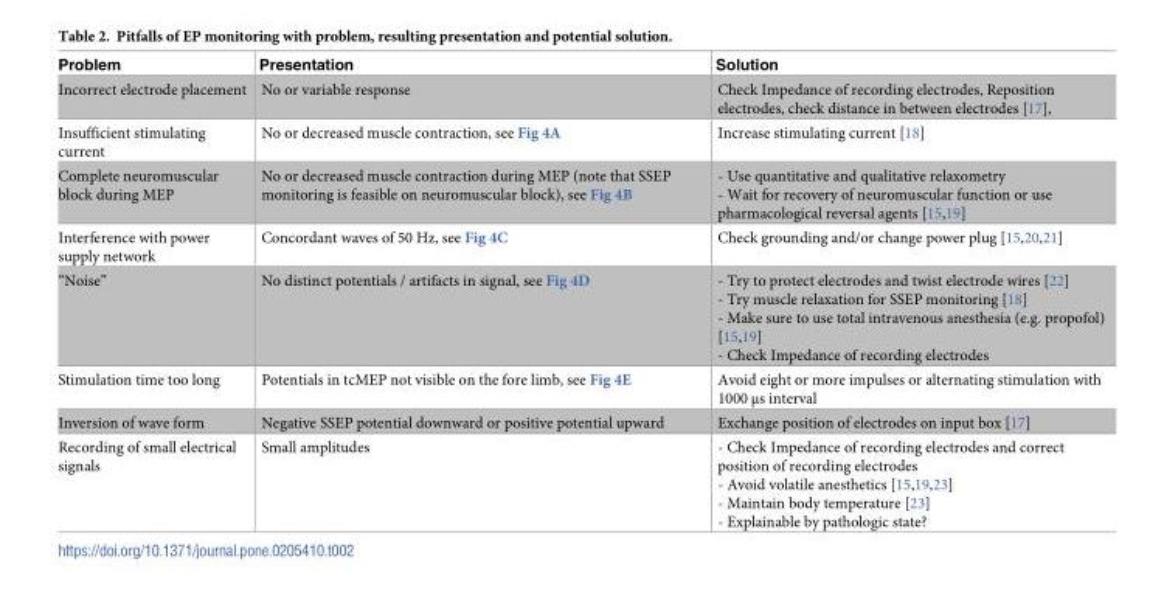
<table><thead><tr><td>Problem</td><td>Presentation</td><td>Solution</td></tr></thead><tbody><tr><td>Incorrect electrode placement</td><td>No or variable response</td><td>Check Impedance of recording electrodes, Reposition electrodes, check distance in between electrodes [17],</td></tr><tr><td>Insufficient stimulating current</td><td>No or decreased muscle contraction, see Fig 4A</td><td>Increase stimulating current [18]</td></tr><tr><td>Complete neuromuscular block during MEP</td><td>No or decreased muscle contraction during MEP (note that SSEP monitoring is feasible on neuromuscular block), see Fig 4B</td><td>- Use quantitative and qualitative relaxometry - Wait for recovery of neuromuscular function or use pharmacological reversal agents [15,19]</td></tr><tr><td>Interference with power supply network</td><td>Concordant waves of 50 Hz, see Fig 4C</td><td>Check grounding and/or change power plug [15,20,21]</td></tr><tr><td>“Noise”</td><td>No distinct potentials / artifacts in signal, see Fig 4D</td><td>- Try to protect electrodes and twist electrode wires [22] - Try muscle relaxation for SSEP monitoring [18] - Make sure to use total intravenous anesthesia (e.g. propofol) [15,19] - Check Impedance of recording electrodes</td></tr><tr><td>Stimulation time too long</td><td>Potentials in tcMEP not visible on the fore limb, see Fig 4E</td><td>Avoid eight or more impulses or alternating stimulation with 1000 μs interval</td></tr><tr><td>Inversion of wave form</td><td>Negative SSEP potential downward or positive potential upward</td><td>Exchange position of electrodes on input box [17]</td></tr><tr><td>Recording of small electrical signals</td><td>Small amplitudes</td><td>- Check Impedance of recording electrodes and correct position of recording electrodes - Avoid volatile anesthetics [15,19,23] - Maintain body temperature [23] - Explainable by pathologic state?</td></tr></tbody></table>